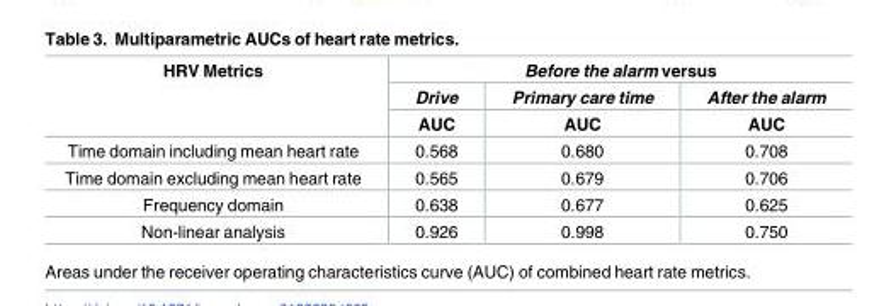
<table><thead><tr><td rowspan="3">HRV Metrics</td><td colspan="3">Before the alarm versus</td></tr><tr><td rowspan="2">Drive AUC</td><td rowspan="2">Primary care time AUC</td><td rowspan="2">After the alarm AUC</td></tr><tr></tr></thead><tbody><tr><td>Time domain including mean heart rate</td><td>0.568</td><td>0.680</td><td>0.708</td></tr><tr><td>Time domain excluding mean heart rate</td><td>0.565</td><td>0.679</td><td>0.706</td></tr><tr><td>Frequency domain</td><td>0.638</td><td>0.677</td><td>0.625</td></tr><tr><td>Non-linear analysis</td><td>0.926</td><td>0.998</td><td>0.750</td></tr></tbody></table>